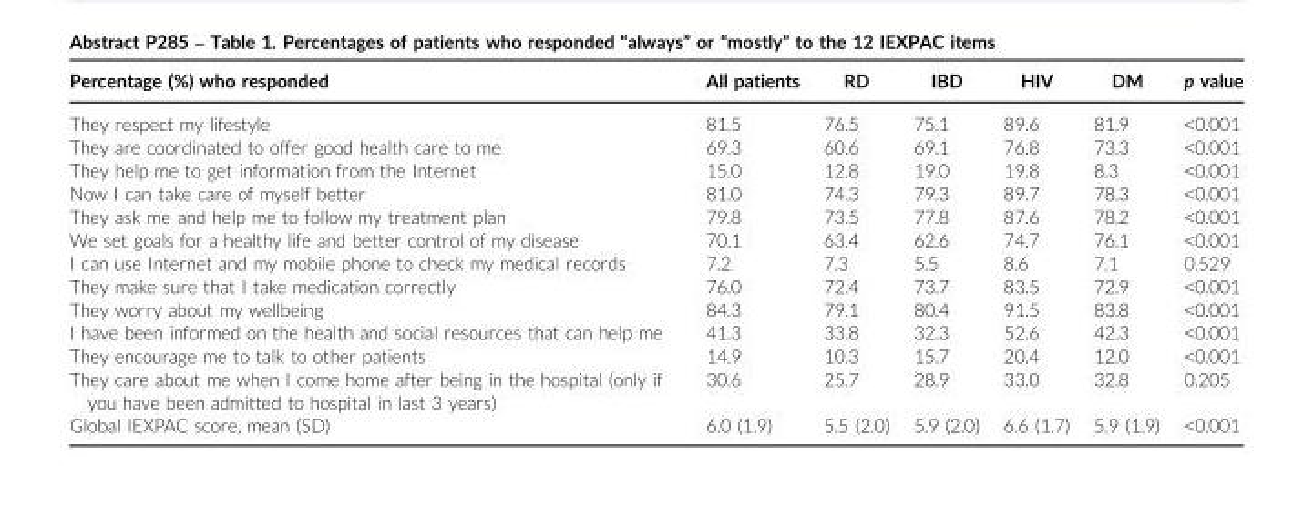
<table><thead><tr><td>Percentage (%) who responded</td><td>All patients</td><td>RD</td><td>IBD</td><td>HIV</td><td>DM</td><td>p value</td></tr></thead><tbody><tr><td>They respect my lifestyle</td><td>81.5</td><td>76.5</td><td>75.1</td><td>89.6</td><td>81.9</td><td>&lt;0.001</td></tr><tr><td>They are coordinated to offer good health care to me</td><td>69.3</td><td>60.6</td><td>69.1</td><td>76.8</td><td>73.3</td><td>&lt;0.001</td></tr><tr><td>They help me to get information from the Internet</td><td>15.0</td><td>12.8</td><td>19.0</td><td>19.8</td><td>8.3</td><td>&lt;0.001</td></tr><tr><td>Now I can take care of myself better</td><td>81.0</td><td>74.3</td><td>79.3</td><td>89.7</td><td>78.3</td><td>&lt;0.001</td></tr><tr><td>They ask me and help me to follow my treatment plan</td><td>79.8</td><td>73.5</td><td>77.8</td><td>87.6</td><td>78.2</td><td>&lt;0.001</td></tr><tr><td>We set goals for a healthy life and better control of my disease</td><td>70.1</td><td>63.4</td><td>62.6</td><td>74.7</td><td>76.1</td><td>&lt;0.001</td></tr><tr><td>I can use Internet and my mobile phone to check my medical records</td><td>7.2</td><td>7.3</td><td>5.5</td><td>8.6</td><td>7.1</td><td>0.529</td></tr><tr><td>They make sure that I take medication correctly</td><td>76.0</td><td>72.4</td><td>73.7</td><td>83.5</td><td>72.9</td><td>&lt;0.001</td></tr><tr><td>They worry about my wellbeing</td><td>84.3</td><td>79.1</td><td>80.4</td><td>91.5</td><td>83.8</td><td>&lt;0.001</td></tr><tr><td>I have been informed on the health and social resources that can help me</td><td>41.3</td><td>33.8</td><td>32.3</td><td>52.6</td><td>42.3</td><td>&lt;0.001</td></tr><tr><td>They encourage me to talk to other patients</td><td>14.9</td><td>10.3</td><td>15.7</td><td>20.4</td><td>12.0</td><td>&lt;0.001</td></tr><tr><td>They care about me when I come home after being in the hospital (only if you have been admitted to hospital in last 3 years)</td><td>30.6</td><td>25.7</td><td>28.9</td><td>33.0</td><td>32.8</td><td>0.205</td></tr><tr><td>Global IEXPAC score, mean (SD)</td><td>6.0 (1.9)</td><td>5.5 (2.0)</td><td>5.9 (2.0)</td><td>6.6 (1.7)</td><td>5.9 (1.9)</td><td>&lt;0.001</td></tr></tbody></table>